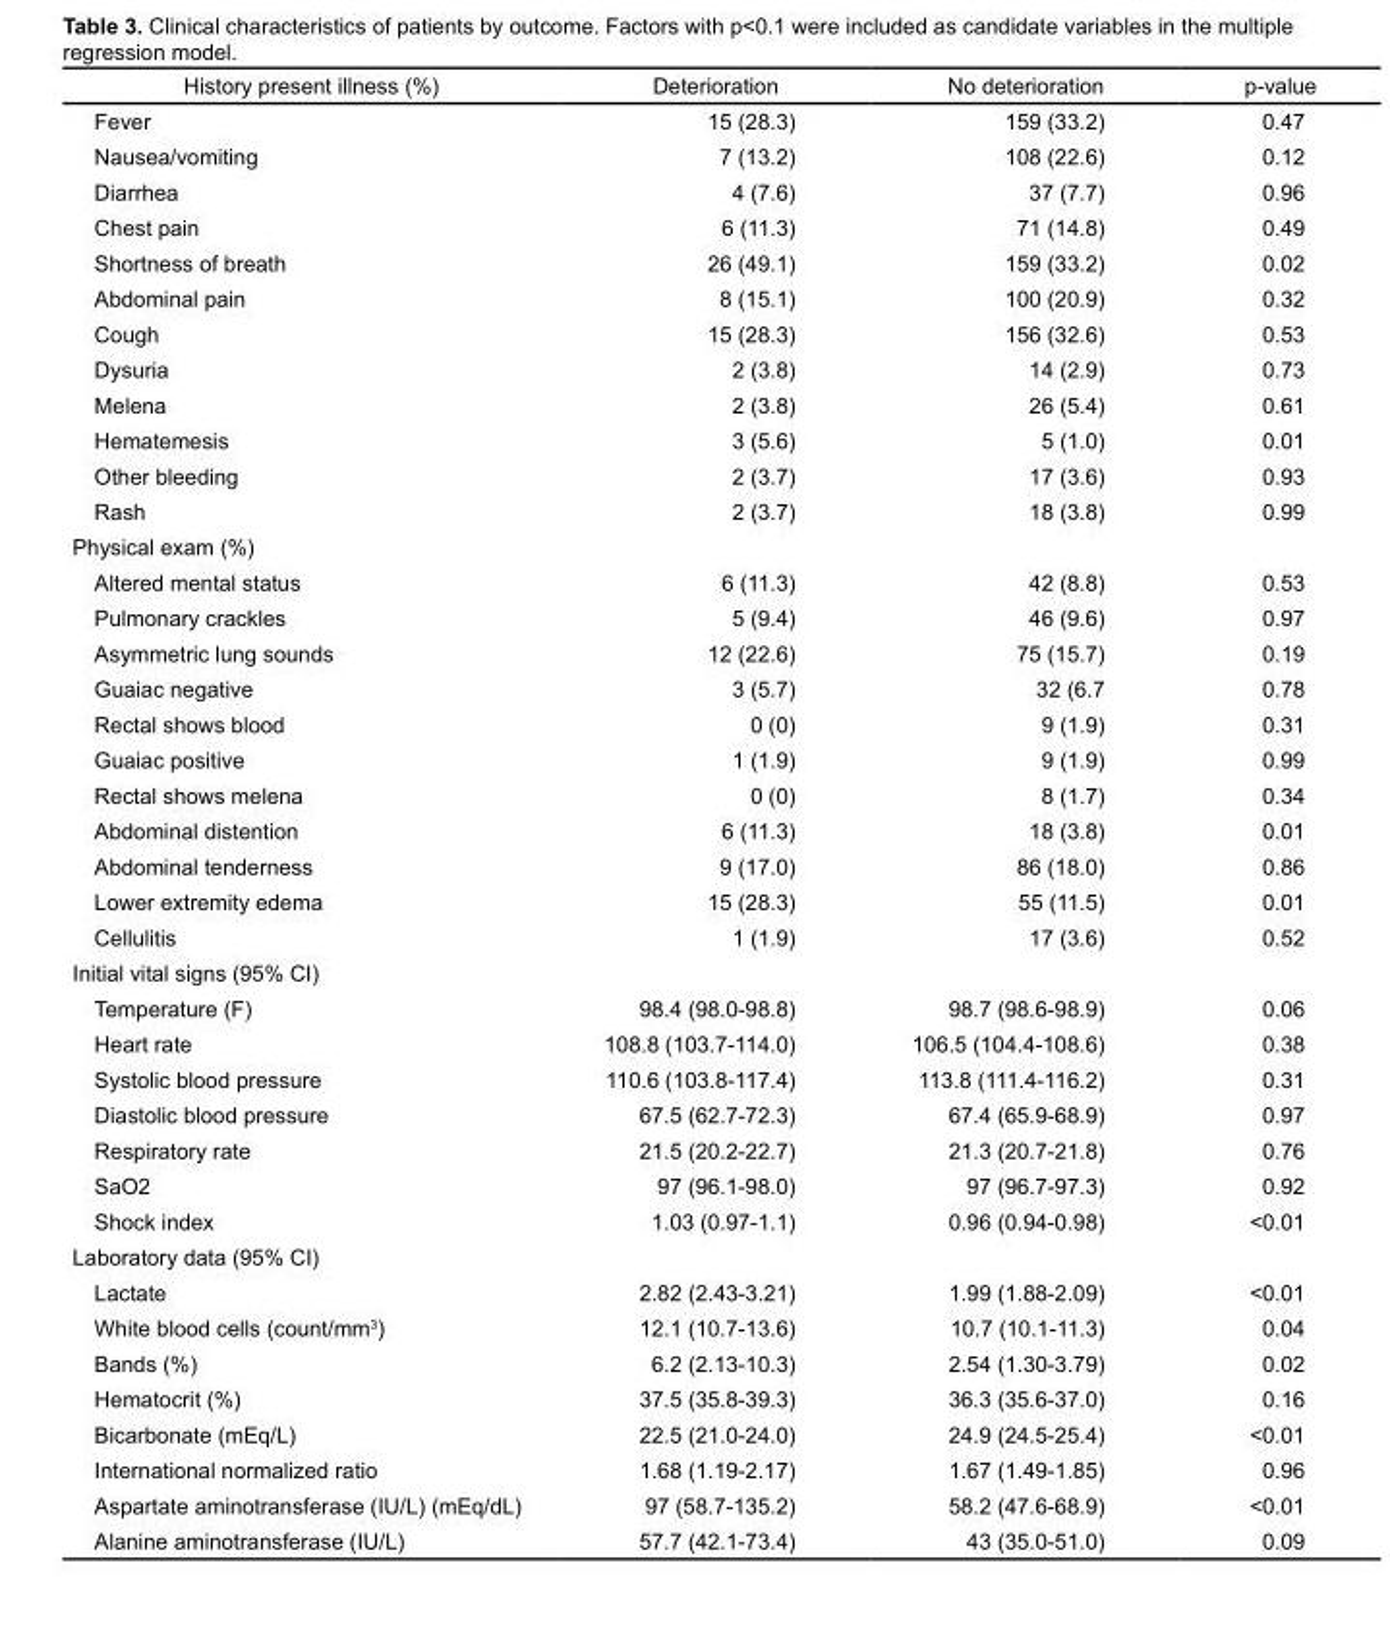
<table><thead><tr><td>History present illness (%)</td><td>Deterioration</td><td>No deterioration</td><td>p-value</td></tr></thead><tbody><tr><td>Fever</td><td>15 (28.3)</td><td>159 (33.2)</td><td>0.47</td></tr><tr><td>Nausea/vomiting</td><td>7 (13.2)</td><td>108 (22.6)</td><td>0.12</td></tr><tr><td>Diarrhea</td><td>4 (7.6)</td><td>37 (7.7)</td><td>0.96</td></tr><tr><td>Chest pain</td><td>6 (11.3)</td><td>71 (14.8)</td><td>0.49</td></tr><tr><td>Shortness of breath</td><td>26 (49.1)</td><td>159 (33.2)</td><td>0.02</td></tr><tr><td>Abdominal pain</td><td>8 (15.1)</td><td>100 (20.9)</td><td>0.32</td></tr><tr><td>Cough</td><td>15 (28.3)</td><td>156 (32.6)</td><td>0.53</td></tr><tr><td>Dysuria</td><td>2 (3.8)</td><td>14 (2.9)</td><td>0.73</td></tr><tr><td>Melena</td><td>2 (3.8)</td><td>26 (5.4)</td><td>0.61</td></tr><tr><td>Hematemesis</td><td>3 (5.6)</td><td>5 (1.0)</td><td>0.01</td></tr><tr><td>Other bleeding</td><td>2 (3.7)</td><td>17 (3.6)</td><td>0.93</td></tr><tr><td>Rash</td><td>2 (3.7)</td><td>18 (3.8)</td><td>0.99</td></tr><tr><td colspan="4">Physical exam (%)</td></tr><tr><td>Altered mental status</td><td>6 (11.3)</td><td>42 (8.8)</td><td>0.53</td></tr><tr><td>Pulmonary crackles</td><td>5 (9.4)</td><td>46 (9.6)</td><td>0.97</td></tr><tr><td>Asymmetric lung sounds</td><td>12 (22.6)</td><td>75 (15.7)</td><td>0.19</td></tr><tr><td>Guaiac negative</td><td>3 (5.7)</td><td>32 (6.7</td><td>0.78</td></tr><tr><td>Rectal shows blood</td><td>0 (0)</td><td>9 (1.9)</td><td>0.31</td></tr><tr><td>Guaiac positive</td><td>1 (1.9)</td><td>9 (1.9)</td><td>0.99</td></tr><tr><td>Rectal shows melena</td><td>0 (0)</td><td>8 (1.7)</td><td>0.34</td></tr><tr><td>Abdominal distention</td><td>6 (11.3)</td><td>18 (3.8)</td><td>0.01</td></tr><tr><td>Abdominal tenderness</td><td>9 (17.0)</td><td>86 (18.0)</td><td>0.86</td></tr><tr><td>Lower extremity edema</td><td>15 (28.3)</td><td>55 (11.5)</td><td>0.01</td></tr><tr><td>Cellulitis</td><td>1 (1.9)</td><td>17 (3.6)</td><td>0.52</td></tr><tr><td colspan="4">Initial vital signs (95% CI)</td></tr><tr><td>Temperature (F)</td><td>98.4 (98.0-98.8)</td><td>98.7 (98.6-98.9)</td><td>0.06</td></tr><tr><td>Heart rate</td><td>108.8 (103.7-114.0)</td><td>106.5 (104.4-108.6)</td><td>0.38</td></tr><tr><td>Systolic blood pressure</td><td>110.6 (103.8-117.4)</td><td>113.8 (111.4-116.2)</td><td>0.31</td></tr><tr><td>Diastolic blood pressure</td><td>67.5 (62.7-72.3)</td><td>67.4 (65.9-68.9)</td><td>0.97</td></tr><tr><td>Respiratory rate</td><td>21.5 (20.2-22.7)</td><td>21.3 (20.7-21.8)</td><td>0.76</td></tr><tr><td>SaO2</td><td>97 (96.1-98.0)</td><td>97 (96.7-97.3)</td><td>0.92</td></tr><tr><td>Shock index</td><td>1.03 (0.97-1.1)</td><td>0.96 (0.94-0.98)</td><td>&lt;0.01</td></tr><tr><td colspan="4">Laboratory data (95% CI)</td></tr><tr><td>Lactate</td><td>2.82 (2.43-3.21)</td><td>1.99 (1.88-2.09)</td><td>&lt;0.01</td></tr><tr><td>White blood cells (count/mm<sup>3</sup>)</td><td>12.1 (10.7-13.6)</td><td>10.7 (10.1-11.3)</td><td>0.04</td></tr><tr><td>Bands (%)</td><td>6.2 (2.13-10.3)</td><td>2.54 (1.30-3.79)</td><td>0.02</td></tr><tr><td>Hematocrit (%)</td><td>37.5 (35.8-39.3)</td><td>36.3 (35.6-37.0)</td><td>0.16</td></tr><tr><td>Bicarbonate (mEq/L)</td><td>22.5 (21.0-24.0)</td><td>24.9 (24.5-25.4)</td><td>&lt;0.01</td></tr><tr><td>International normalized ratio</td><td>1.68 (1.19-2.17)</td><td>1.67 (1.49-1.85)</td><td>0.96</td></tr><tr><td>Aspartate aminotransferase (IU/L) (mEq/dL)</td><td>97 (58.7-135.2)</td><td>58.2 (47.6-68.9)</td><td>&lt;0.01</td></tr><tr><td>Alanine aminotransferase (IU/L)</td><td>57.7 (42.1-73.4)</td><td>43 (35.0-51.0)</td><td>0.09</td></tr></tbody></table>